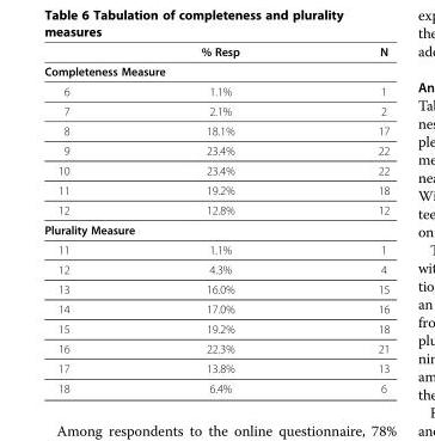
<table><thead><tr><td></td><td>% Resp</td><td>N</td></tr></thead><tbody><tr><td colspan="3">Completeness Measure</td></tr><tr><td>6</td><td>1.1%</td><td>1</td></tr><tr><td>7</td><td>2.1%</td><td>2</td></tr><tr><td>8</td><td>18.1%</td><td>17</td></tr><tr><td>9</td><td>23.4%</td><td>22</td></tr><tr><td>10</td><td>23.4%</td><td>22</td></tr><tr><td>11</td><td>19.2%</td><td>18</td></tr><tr><td>12</td><td>12.8%</td><td>12</td></tr><tr><td colspan="3">Plurality Measure</td></tr><tr><td>11</td><td>1.1%</td><td>1</td></tr><tr><td>12</td><td>4.3%</td><td>4</td></tr><tr><td>13</td><td>16.0%</td><td>15</td></tr><tr><td>14</td><td>17.0%</td><td>16</td></tr><tr><td>15</td><td>19.2%</td><td>18</td></tr><tr><td>16</td><td>22.3%</td><td>21</td></tr><tr><td>17</td><td>13.8%</td><td>13</td></tr><tr><td>18</td><td>6.4%</td><td>6</td></tr></tbody></table>